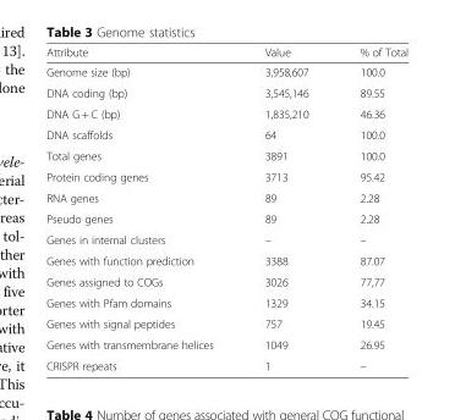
<table><thead><tr><td>Attribute</td><td>Value</td><td>% of Total</td></tr></thead><tbody><tr><td>Genome size (bp)</td><td>3,958,607</td><td>100.0</td></tr><tr><td>DNA coding (bp)</td><td>3,545,146</td><td>89.55</td></tr><tr><td>DNA G + C (bp)</td><td>1,835,210</td><td>46.36</td></tr><tr><td>DNA scaffolds</td><td>64</td><td>100.0</td></tr><tr><td>Total genes</td><td>3891</td><td>100.0</td></tr><tr><td>Protein coding genes</td><td>3713</td><td>95.42</td></tr><tr><td>RNA genes</td><td>89</td><td>2.28</td></tr><tr><td>Pseudo genes</td><td>89</td><td>2.28</td></tr><tr><td>Genes in internal clusters</td><td>–</td><td>–</td></tr><tr><td>Genes with function prediction</td><td>3388</td><td>87.07</td></tr><tr><td>Genes assigned to COGs</td><td>3026</td><td>77,77</td></tr><tr><td>Genes with Pfam domains</td><td>1329</td><td>34.15</td></tr><tr><td>Genes with signal peptides</td><td>757</td><td>19.45</td></tr><tr><td>Genes with transmembrane helices</td><td>1049</td><td>26.95</td></tr><tr><td>CRISPR repeats</td><td>1</td><td>–</td></tr></tbody></table>